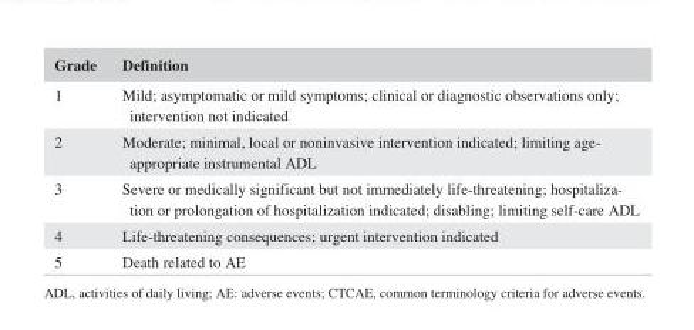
<table><thead><tr><td>Grade</td><td>Definition</td></tr></thead><tbody><tr><td>1</td><td>Mild; asymptomatic or mild symptoms; clinical or diagnostic observations only; intervention not indicated</td></tr><tr><td>2</td><td>Moderate; minimal, local or noninvasive intervention indicated; limiting age- appropriate instrumental ADL</td></tr><tr><td>3</td><td>Severe or medically significant but not immediately life- threatening; hospitaliza- tion or prolongation of hospitalization indicated; disabling; limiting self- care ADL</td></tr><tr><td>4</td><td>Life- threatening consequences; urgent intervention indicated</td></tr><tr><td>5</td><td>Death related to AE</td></tr></tbody></table>